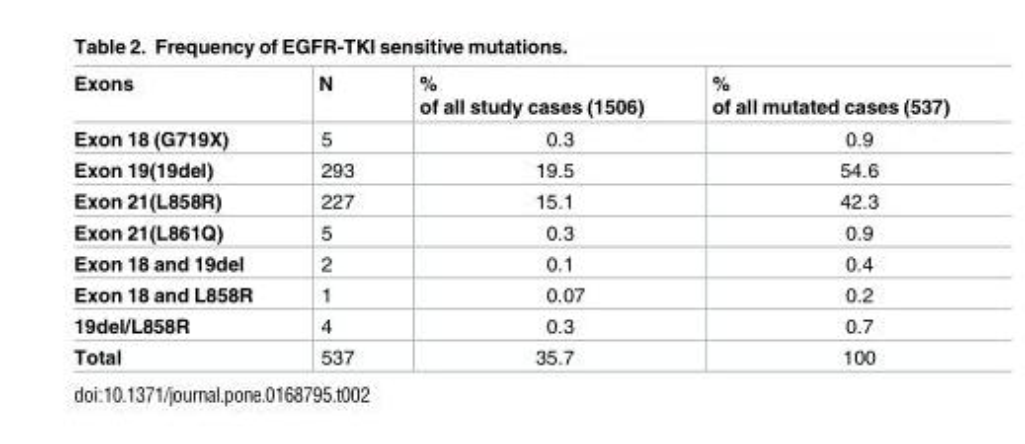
<table><thead><tr><td>Exons</td><td>N</td><td>% of all study cases (1506)</td><td>% of all mutated cases (537)</td></tr></thead><tbody><tr><td>Exon 18 (G719X)</td><td>5</td><td>0.3</td><td>0.9</td></tr><tr><td>Exon 19(19del)</td><td>293</td><td>19.5</td><td>54.6</td></tr><tr><td>Exon 21(L858R)</td><td>227</td><td>15.1</td><td>42.3</td></tr><tr><td>Exon 21(L861Q)</td><td>5</td><td>0.3</td><td>0.9</td></tr><tr><td>Exon 18 and 19del</td><td>2</td><td>0.1</td><td>0.4</td></tr><tr><td>Exon 18 and L858R</td><td>1</td><td>0.07</td><td>0.2</td></tr><tr><td>19del/L858R</td><td>4</td><td>0.3</td><td>0.7</td></tr><tr><td>Total</td><td>537</td><td>35.7</td><td>100</td></tr></tbody></table>